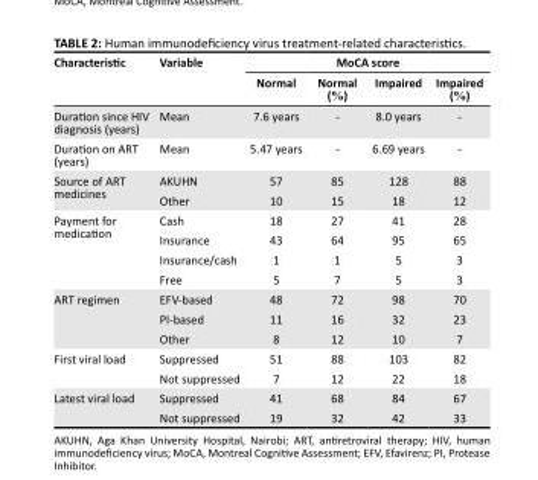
<table><thead><tr><td rowspan="2">Characteristic</td><td rowspan="2">Variable</td><td colspan="4">MoCA score</td></tr><tr><td>Normal</td><td>Normal (%)</td><td>Impaired</td><td>Impaired (%)</td></tr></thead><tbody><tr><td>Duration since HIV diagnosis (years)</td><td>Mean</td><td>7.6 years</td><td>-</td><td>8.0 years</td><td>-</td></tr><tr><td>Duration on ART (years)</td><td>Mean</td><td>5.47 years</td><td>-</td><td>6.69 years</td><td>-</td></tr><tr><td rowspan="2">Source of ART medicines</td><td>AKUHN</td><td>57</td><td>85</td><td>128</td><td>88</td></tr><tr><td>Other</td><td>10</td><td>15</td><td>18</td><td>12</td></tr><tr><td rowspan="4">Payment for medication</td><td>Cash</td><td>18</td><td>27</td><td>41</td><td>28</td></tr><tr><td>Insurance</td><td>43</td><td>64</td><td>95</td><td>65</td></tr><tr><td>Insurance/cash</td><td>1</td><td>1</td><td>5</td><td>3</td></tr><tr><td>Free</td><td>5</td><td>7</td><td>5</td><td>3</td></tr><tr><td rowspan="3">ART regimen</td><td>EFV-based</td><td>48</td><td>72</td><td>98</td><td>70</td></tr><tr><td>PI-based</td><td>11</td><td>16</td><td>32</td><td>23</td></tr><tr><td>Other</td><td>8</td><td>12</td><td>10</td><td>7</td></tr><tr><td rowspan="2">First viral load</td><td>Suppressed</td><td>51</td><td>88</td><td>103</td><td>82</td></tr><tr><td>Not suppressed</td><td>7</td><td>12</td><td>22</td><td>18</td></tr><tr><td rowspan="2">Latest viral load</td><td>Suppressed</td><td>41</td><td>68</td><td>84</td><td>67</td></tr><tr><td>Not suppressed</td><td>19</td><td>32</td><td>42</td><td>33</td></tr></tbody></table>